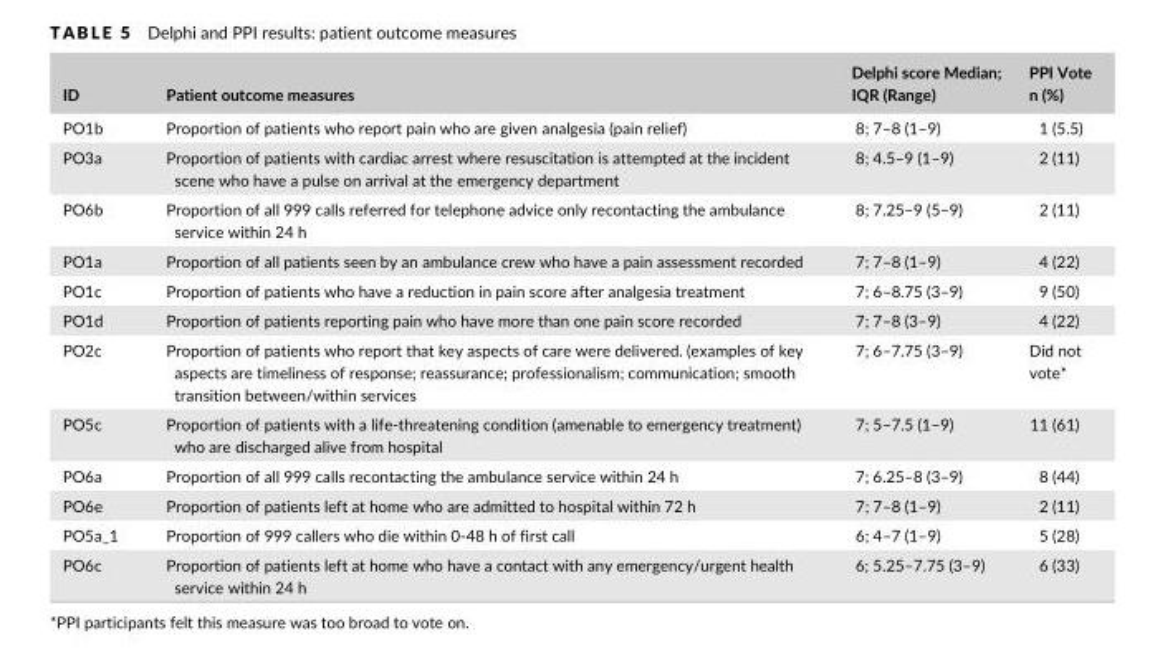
<table><thead><tr><td>ID</td><td>Patient outcome measures</td><td>Delphi score Median; IQR (Range)</td><td>PPI Vote n (%)</td></tr></thead><tbody><tr><td>PO1b</td><td>Proportion of patients who report pain who are given analgesia (pain relief)</td><td>8; 7–8 (1–9)</td><td>1 (5.5)</td></tr><tr><td>PO3a</td><td>Proportion of patients with cardiac arrest where resuscitation is attempted at the incident scene who have a pulse on arrival at the emergency department</td><td>8; 4.5–9 (1–9)</td><td>2 (11)</td></tr><tr><td>PO6b</td><td>Proportion of all 999 calls referred for telephone advice only recontacting the ambulance service within 24 h</td><td>8; 7.25–9 (5–9)</td><td>2 (11)</td></tr><tr><td>PO1a</td><td>Proportion of all patients seen by an ambulance crew who have a pain assessment recorded</td><td>7; 7–8 (1–9)</td><td>4 (22)</td></tr><tr><td>PO1c</td><td>Proportion of patients who have a reduction in pain score after analgesia treatment</td><td>7; 6–8.75 (3–9)</td><td>9 (50)</td></tr><tr><td>PO1d</td><td>Proportion of patients reporting pain who have more than one pain score recorded</td><td>7; 7–8 (3–9)</td><td>4 (22)</td></tr><tr><td>PO2c</td><td>Proportion of patients who report that key aspects of care were delivered. (examples of key aspects are timeliness of response; reassurance; professionalism; communication; smooth transition between/within services</td><td>7; 6–7.75 (3–9)</td><td>Did not vote*</td></tr><tr><td>PO5c</td><td>Proportion of patients with a life- threatening condition (amenable to emergency treatment) who are discharged alive from hospital</td><td>7; 5–7.5 (1–9)</td><td>11 (61)</td></tr><tr><td>PO6a</td><td>Proportion of all 999 calls recontacting the ambulance service within 24 h</td><td>7; 6.25–8 (3–9)</td><td>8 (44)</td></tr><tr><td>PO6e</td><td>Proportion of patients left at home who are admitted to hospital within 72 h</td><td>7; 7–8 (1–9)</td><td>2 (11)</td></tr><tr><td>PO5a_1</td><td>Proportion of 999 callers who die within 0- 48 h of first call</td><td>6; 4–7 (1–9)</td><td>5 (28)</td></tr><tr><td>PO6c</td><td>Proportion of patients left at home who have a contact with any emergency/urgent health service within 24 h</td><td>6; 5.25–7.75 (3–9)</td><td>6 (33)</td></tr></tbody></table>